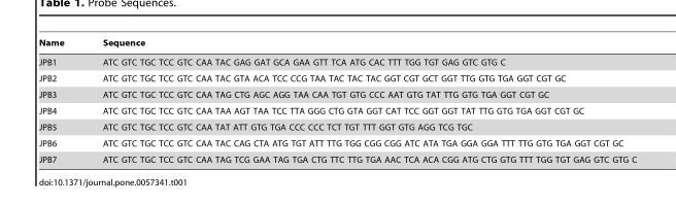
<table><thead><tr><td>Name</td><td>Sequence</td></tr></thead><tbody><tr><td>JPB1</td><td>ATC GTC TGC TCC GTC CAA TAC GAG GAT GCA GAA GTT TCA ATG CAC TTT TGG TGT GAG GTC GTG C</td></tr><tr><td>JPB2</td><td>ATC GTC TGC TCC GTC CAA TAC GTA ACA TCC CCG TAA TAC TAC TAC GGT CGT GCT GGT TTG GTG TGA GGT CGT GC</td></tr><tr><td>JPB3</td><td>ATC GTC TGC TCC GTC CAA TAG CTG AGC AGG TAA CAA TGT GTG CCC AAT GTG TAT TTG GTG TGA GGT CGT GC</td></tr><tr><td>JPB4</td><td>ATC GTC TGC TCC GTC CAA TAA AGT TAA TCC TTA GGG CTG GTA GGT CAT TCC GGT GGT TAT TTG GTG TGA GGT CGT GC</td></tr><tr><td>JPB5</td><td>ATC GTC TGC TCC GTC CAA TAT ATT GTG TGA CCC CCC TCT TGT TTT GGT GTG AGG TCG TGC</td></tr><tr><td>JPB6</td><td>ATC GTC TGC TCC GTC CAA TAC CAG CTA ATG TGT ATT TTG TGG CGG CGG ATC ATA TGA GGA GGA TTT TTG GTG TGA GGT CGT GC</td></tr><tr><td>JPB7</td><td>ATC GTC TGC TCC GTC CAA TAG TCG GAA TAG TGA CTG TTC TTG TGA AAC TCA ACA CGG ATG CTG GTG TTT TGG TGT GAG GTC GTG C</td></tr></tbody></table>